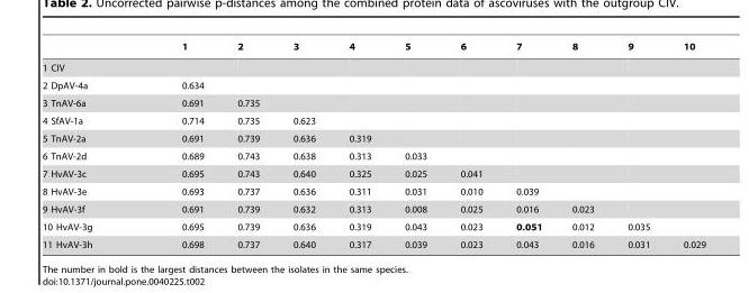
<table><thead><tr><td></td><td>1</td><td>2</td><td>3</td><td>4</td><td>5</td><td>6</td><td>7</td><td>8</td><td>9</td><td>10</td></tr></thead><tbody><tr><td colspan="11">1 CIV</td></tr><tr><td>2 DpAV-4a</td><td>0.634</td><td></td><td></td><td></td><td></td><td></td><td></td><td></td><td></td><td></td></tr><tr><td>3 TnAV-6a</td><td>0.691</td><td>0.735</td><td></td><td></td><td></td><td></td><td></td><td></td><td></td><td></td></tr><tr><td>4 SfAV-1a</td><td>0.714</td><td>0.735</td><td>0.623</td><td></td><td></td><td></td><td></td><td></td><td></td><td></td></tr><tr><td>5 TnAV-2a</td><td>0.691</td><td>0.739</td><td>0.636</td><td>0.319</td><td></td><td></td><td></td><td></td><td></td><td></td></tr><tr><td>6 TnAV-2d</td><td>0.689</td><td>0.743</td><td>0.638</td><td>0.313</td><td>0.033</td><td></td><td></td><td></td><td></td><td></td></tr><tr><td>7 HvAV-3c</td><td>0.695</td><td>0.743</td><td>0.640</td><td>0.325</td><td>0.025</td><td>0.041</td><td></td><td></td><td></td><td></td></tr><tr><td>8 HvAV-3e</td><td>0.693</td><td>0.737</td><td>0.636</td><td>0.311</td><td>0.031</td><td>0.010</td><td>0.039</td><td></td><td></td><td></td></tr><tr><td>9 HvAV-3f</td><td>0.691</td><td>0.739</td><td>0.632</td><td>0.313</td><td>0.008</td><td>0.025</td><td>0.016</td><td>0.023</td><td></td><td></td></tr><tr><td>10 HvAV-3g</td><td>0.695</td><td>0.739</td><td>0.636</td><td>0.319</td><td>0.043</td><td>0.023</td><td>0.051</td><td>0.012</td><td>0.035</td><td></td></tr><tr><td>11 HvAV-3h</td><td>0.698</td><td>0.737</td><td>0.640</td><td>0.317</td><td>0.039</td><td>0.023</td><td>0.043</td><td>0.016</td><td>0.031</td><td>0.029</td></tr></tbody></table>